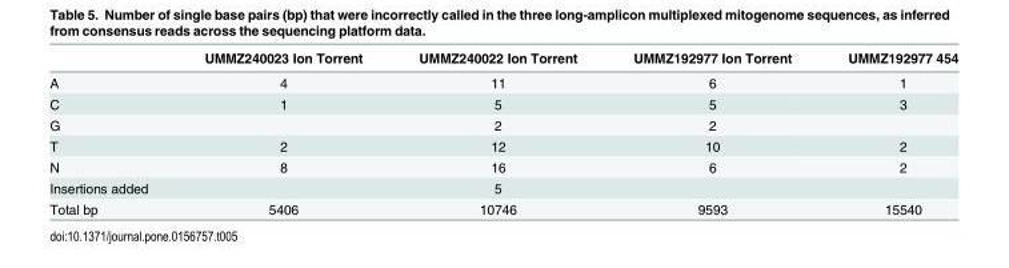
<table><thead><tr><td></td><td>UMMZ240023 Ion Torrent</td><td>UMMZ240022 Ion Torrent</td><td>UMMZ192977 Ion Torrent</td><td>UMMZ192977 454</td></tr></thead><tbody><tr><td>A</td><td>4</td><td>11</td><td>6</td><td>1</td></tr><tr><td>C</td><td>1</td><td>5</td><td>5</td><td>3</td></tr><tr><td>G</td><td></td><td>2</td><td>2</td><td></td></tr><tr><td>T</td><td>2</td><td>12</td><td>10</td><td>2</td></tr><tr><td>N</td><td>8</td><td>16</td><td>6</td><td>2</td></tr><tr><td>Insertions added</td><td></td><td>5</td><td></td><td></td></tr><tr><td>Total bp</td><td>5406</td><td>10746</td><td>9593</td><td>15540</td></tr></tbody></table>